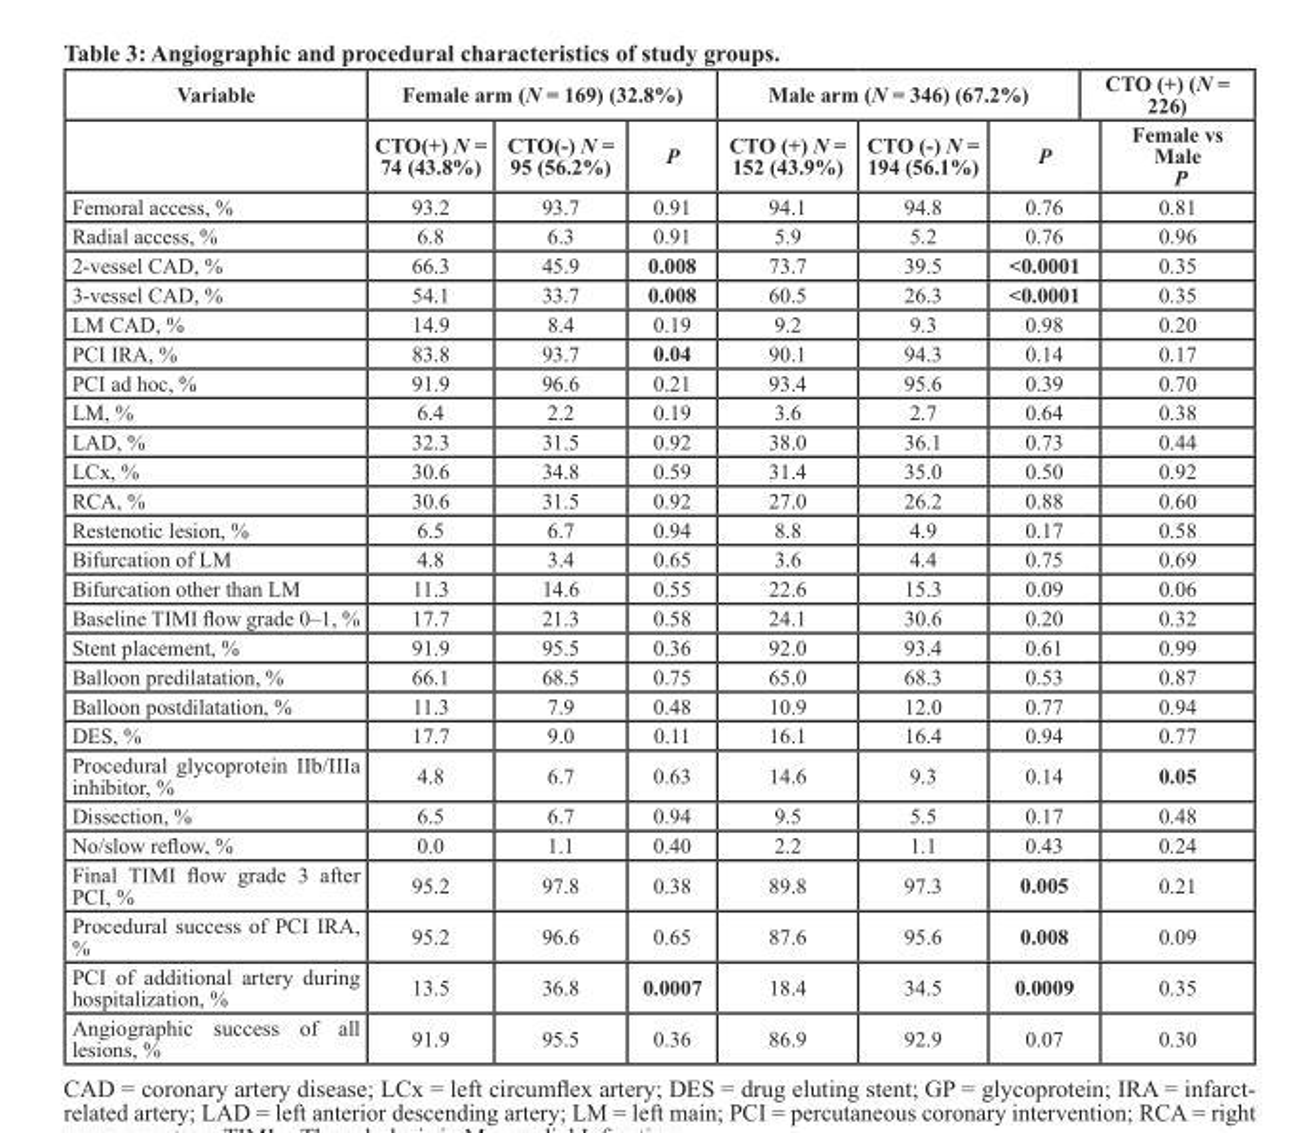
<table><thead><tr><td rowspan="2">Variable</td><td colspan="3">Female arm (N = 169) (32.8%)</td><td colspan="3">Male arm (N = 346) (67.2%)</td><td rowspan="2">CTO (+) (N = 226) Female vs Male P</td></tr><tr><td>CTO(+) N = 74 (43.8%)</td><td>CTO(-) N = 95 (56.2%)</td><td>P</td><td>CTO (+) N = 152 (43.9%)</td><td>CTO (-) N = 194 (56.1%)</td><td>P</td></tr></thead><tbody><tr><td>Femoral access, %</td><td>93.2</td><td>93.7</td><td>0.91</td><td>94.1</td><td>94.8</td><td>0.76</td><td>0.81</td></tr><tr><td>Radial access, %</td><td>6.8</td><td>6.3</td><td>0.91</td><td>5.9</td><td>5.2</td><td>0.76</td><td>0.96</td></tr><tr><td>2-vessel CAD, %</td><td>66.3</td><td>45.9</td><td>0.008</td><td>73.7</td><td>39.5</td><td>&lt;0.0001</td><td>0.35</td></tr><tr><td>3-vessel CAD, %</td><td>54.1</td><td>33.7</td><td>0.008</td><td>60.5</td><td>26.3</td><td>&lt;0.0001</td><td>0.35</td></tr><tr><td>LM CAD, %</td><td>14.9</td><td>8.4</td><td>0.19</td><td>9.2</td><td>9.3</td><td>0.98</td><td>0.20</td></tr><tr><td>PCI IRA, %</td><td>83.8</td><td>93.7</td><td>0.04</td><td>90.1</td><td>94.3</td><td>0.14</td><td>0.17</td></tr><tr><td>PCI ad hoc, %</td><td>91.9</td><td>96.6</td><td>0.21</td><td>93.4</td><td>95.6</td><td>0.39</td><td>0.70</td></tr><tr><td>LM, %</td><td>6.4</td><td>2.2</td><td>0.19</td><td>3.6</td><td>2.7</td><td>0.64</td><td>0.38</td></tr><tr><td>LAD, %</td><td>32.3</td><td>31.5</td><td>0.92</td><td>38.0</td><td>36.1</td><td>0.73</td><td>0.44</td></tr><tr><td>LCx, %</td><td>30.6</td><td>34.8</td><td>0.59</td><td>31.4</td><td>35.0</td><td>0.50</td><td>0.92</td></tr><tr><td>RCA, %</td><td>30.6</td><td>31.5</td><td>0.92</td><td>27.0</td><td>26.2</td><td>0.88</td><td>0.60</td></tr><tr><td>Restenotic lesion, %</td><td>6.5</td><td>6.7</td><td>0.94</td><td>8.8</td><td>4.9</td><td>0.17</td><td>0.58</td></tr><tr><td>Bifurcation of LM</td><td>4.8</td><td>3.4</td><td>0.65</td><td>3.6</td><td>4.4</td><td>0.75</td><td>0.69</td></tr><tr><td>Bifurcation other than LM</td><td>11.3</td><td>14.6</td><td>0.55</td><td>22.6</td><td>15.3</td><td>0.09</td><td>0.06</td></tr><tr><td>Baseline TIMI flow grade 0–1, %</td><td>17.7</td><td>21.3</td><td>0.58</td><td>24.1</td><td>30.6</td><td>0.20</td><td>0.32</td></tr><tr><td>Stent placement, %</td><td>91.9</td><td>95.5</td><td>0.36</td><td>92.0</td><td>93.4</td><td>0.61</td><td>0.99</td></tr><tr><td>Balloon predilatation, %</td><td>66.1</td><td>68.5</td><td>0.75</td><td>65.0</td><td>68.3</td><td>0.53</td><td>0.87</td></tr><tr><td>Balloon postdilatation, %</td><td>11.3</td><td>7.9</td><td>0.48</td><td>10.9</td><td>12.0</td><td>0.77</td><td>0.94</td></tr><tr><td>DES, %</td><td>17.7</td><td>9.0</td><td>0.11</td><td>16.1</td><td>16.4</td><td>0.94</td><td>0.77</td></tr><tr><td>Procedural glycoprotein IIb/IIIa inhibitor, %</td><td>4.8</td><td>6.7</td><td>0.63</td><td>14.6</td><td>9.3</td><td>0.14</td><td>0.05</td></tr><tr><td>Dissection, %</td><td>6.5</td><td>6.7</td><td>0.94</td><td>9.5</td><td>5.5</td><td>0.17</td><td>0.48</td></tr><tr><td>No/slow reflow, %</td><td>0.0</td><td>1.1</td><td>0.40</td><td>2.2</td><td>1.1</td><td>0.43</td><td>0.24</td></tr><tr><td>Final TIMI flow grade 3 after PCI, %</td><td>95.2</td><td>97.8</td><td>0.38</td><td>89.8</td><td>97.3</td><td>0.005</td><td>0.21</td></tr><tr><td>Procedural success of PCI IRA, %</td><td>95.2</td><td>96.6</td><td>0.65</td><td>87.6</td><td>95.6</td><td>0.008</td><td>0.09</td></tr><tr><td>PCI of additional artery during hospitalization, %</td><td>13.5</td><td>36.8</td><td>0.0007</td><td>18.4</td><td>34.5</td><td>0.0009</td><td>0.35</td></tr><tr><td>Angiographic success of all lesions, %</td><td>91.9</td><td>95.5</td><td>0.36</td><td>86.9</td><td>92.9</td><td>0.07</td><td>0.30</td></tr></tbody></table>